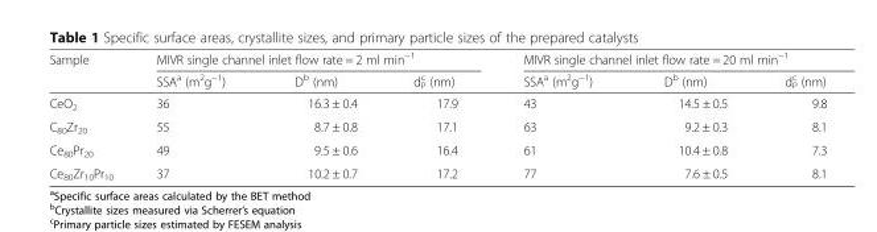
<table><thead><tr><td rowspan="2">Sample</td><td colspan="3">MIVR single channel inlet flow rate = 2 ml min<sup>−1</sup></td><td colspan="3">MIVR single channel inlet flow rate = 20 ml min<sup>−1</sup></td></tr><tr><td>SSA<sup>a</sup> (m<sup>2</sup>g<sup>−1</sup>)</td><td>D<sup>b</sup> (nm)</td><td>d<sub>P</sub> <sup>c</sup> (nm)</td><td>SSA<sup>a</sup> (m<sup>2</sup>g<sup>−1</sup>)</td><td>D<sup>b</sup> (nm)</td><td>d<sub>P</sub> <sup>c</sup> (nm)</td></tr></thead><tbody><tr><td>CeO<sub>2</sub></td><td>36</td><td>16.3 ± 0.4</td><td>17.9</td><td>43</td><td>14.5 ± 0.5</td><td>9.8</td></tr><tr><td>C<sub>80</sub>Zr<sub>20</sub></td><td>55</td><td>8.7 ± 0.8</td><td>17.1</td><td>63</td><td>9.2 ± 0.3</td><td>8.1</td></tr><tr><td>Ce<sub>80</sub>Pr<sub>20</sub></td><td>49</td><td>9.5 ± 0.6</td><td>16.4</td><td>61</td><td>10.4 ± 0.8</td><td>7.3</td></tr><tr><td>Ce<sub>80</sub>Zr<sub>10</sub>Pr<sub>10</sub></td><td>37</td><td>10.2 ± 0.7</td><td>17.2</td><td>77</td><td>7.6 ± 0.5</td><td>8.1</td></tr></tbody></table>